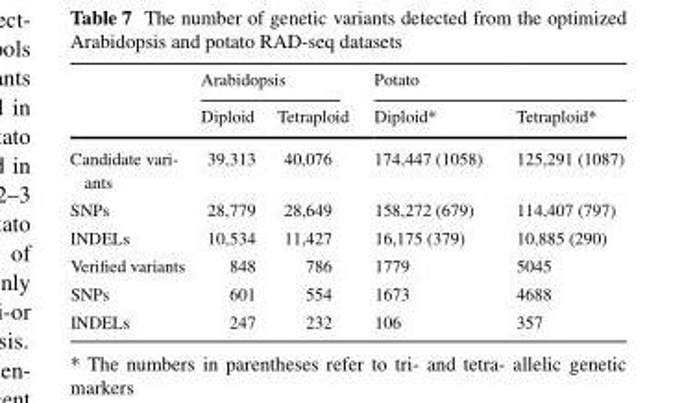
<table><thead><tr><td rowspan="2"></td><td colspan="2">Arabidopsis</td><td colspan="2">Potato</td></tr><tr><td>Diploid</td><td>Tetraploid</td><td>Diploid*</td><td>Tetraploid*</td></tr></thead><tbody><tr><td>Candidate vari- ants</td><td>39,313</td><td>40,076</td><td>174,447 (1058)</td><td>125,291 (1087)</td></tr><tr><td>SNPs</td><td>28,779</td><td>28,649</td><td>158,272 (679)</td><td>114,407 (797)</td></tr><tr><td>INDELs</td><td>10,534</td><td>11,427</td><td>16,175 (379)</td><td>10,885 (290)</td></tr><tr><td>Verified variants</td><td>848</td><td>786</td><td>1779</td><td>5045</td></tr><tr><td>SNPs</td><td>601</td><td>554</td><td>1673</td><td>4688</td></tr><tr><td>INDELs</td><td>247</td><td>232</td><td>106</td><td>357</td></tr></tbody></table>